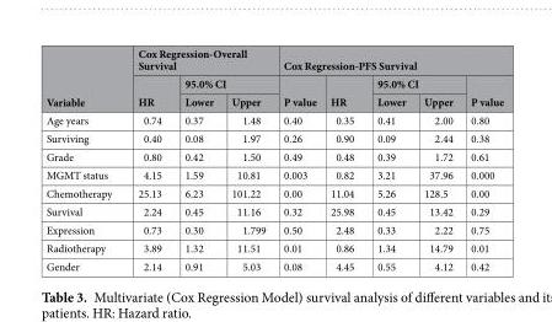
<table><thead><tr><td rowspan="3">Variable</td><td colspan="3">Cox Regression-Overall Survival</td><td colspan="5">Cox Regression-PFS Survival</td></tr><tr><td rowspan="2">HR</td><td colspan="2">95.0% CI</td><td rowspan="2">P value</td><td rowspan="2">HR</td><td colspan="2">95.0% CI</td><td rowspan="2">P value</td></tr><tr><td>Lower</td><td>Upper</td><td>Lower</td><td>Upper</td></tr></thead><tbody><tr><td>Age years</td><td>0.74</td><td>0.37</td><td>1.48</td><td>0.40</td><td>0.35</td><td>0.41</td><td>2.00</td><td>0.80</td></tr><tr><td>Surviving</td><td>0.40</td><td>0.08</td><td>1.97</td><td>0.26</td><td>0.90</td><td>0.09</td><td>2.44</td><td>0.38</td></tr><tr><td>Grade</td><td>0.80</td><td>0.42</td><td>1.50</td><td>0.49</td><td>0.48</td><td>0.39</td><td>1.72</td><td>0.61</td></tr><tr><td>MGMT status</td><td>4.15</td><td>1.59</td><td>10.81</td><td>0.003</td><td>0.82</td><td>3.21</td><td>37.96</td><td>0.000</td></tr><tr><td>Chemotherapy</td><td>25.13</td><td>6.23</td><td>101.22</td><td>0.00</td><td>11.04</td><td>5.26</td><td>128.5</td><td>0.00</td></tr><tr><td>Survival</td><td>2.24</td><td>0.45</td><td>11.16</td><td>0.32</td><td>25.98</td><td>0.45</td><td>13.42</td><td>0.29</td></tr><tr><td>Expression</td><td>0.73</td><td>0.30</td><td>1.799</td><td>0.50</td><td>2.48</td><td>0.33</td><td>2.22</td><td>0.75</td></tr><tr><td>Radiotherapy</td><td>3.89</td><td>1.32</td><td>11.51</td><td>0.01</td><td>0.86</td><td>1.34</td><td>14.79</td><td>0.01</td></tr><tr><td>Gender</td><td>2.14</td><td>0.91</td><td>5.03</td><td>0.08</td><td>4.45</td><td>0.55</td><td>4.12</td><td>0.42</td></tr></tbody></table>